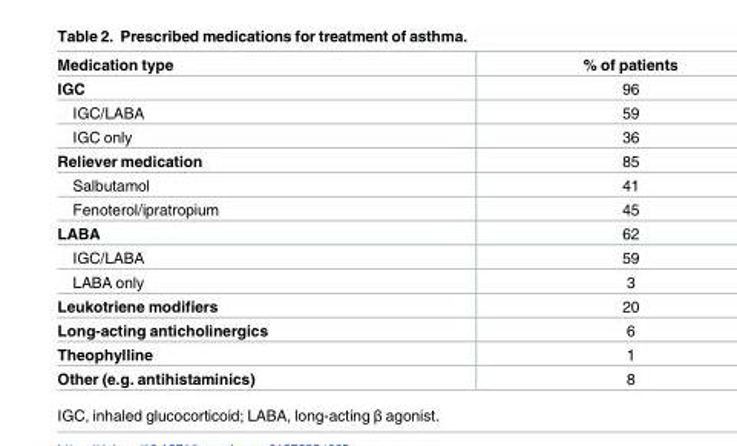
<table><thead><tr><td>Medication type</td><td>% of patients</td></tr></thead><tbody><tr><td>IGC</td><td>96</td></tr><tr><td>IGC/LABA</td><td>59</td></tr><tr><td>IGC only</td><td>36</td></tr><tr><td>Reliever medication</td><td>85</td></tr><tr><td>Salbutamol</td><td>41</td></tr><tr><td>Fenoterol/ipratropium</td><td>45</td></tr><tr><td>LABA</td><td>62</td></tr><tr><td>IGC/LABA</td><td>59</td></tr><tr><td>LABA only</td><td>3</td></tr><tr><td>Leukotriene modifiers</td><td>20</td></tr><tr><td>Long-acting anticholinergics</td><td>6</td></tr><tr><td>Theophylline</td><td>1</td></tr><tr><td>Other (e.g. antihistaminics)</td><td>8</td></tr></tbody></table>